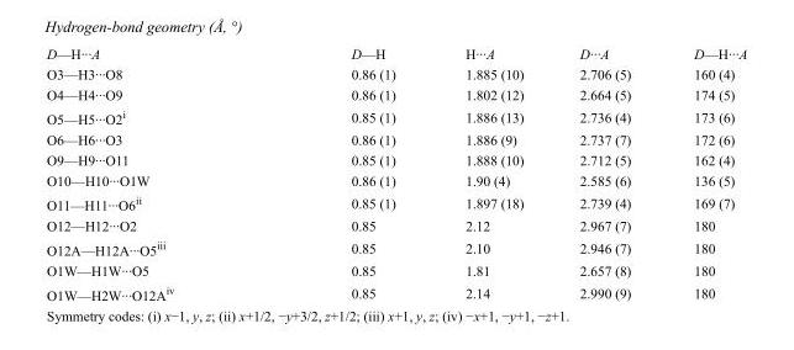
<table><tbody><tr><td>D—H···A</td><td>D—H</td><td>H···A</td><td>D···A</td><td>D—H···A</td></tr><tr><td>O3—H3···O8</td><td>0.86 (1)</td><td>1.885 (10)</td><td>2.706 (5)</td><td>160 (4)</td></tr><tr><td>O4—H4···O9</td><td>0.86 (1)</td><td>1.802 (12)</td><td>2.664 (5)</td><td>174 (5)</td></tr><tr><td>O5—H5···O2<sup>i</sup></td><td>0.85 (1)</td><td>1.886 (13)</td><td>2.736 (4)</td><td>173 (6)</td></tr><tr><td>O6—H6···O3</td><td>0.86 (1)</td><td>1.886 (9)</td><td>2.737 (7)</td><td>172 (6)</td></tr><tr><td>O9—H9···O11</td><td>0.85 (1)</td><td>1.888 (10)</td><td>2.712 (5)</td><td>162 (4)</td></tr><tr><td>O10—H10···O1W</td><td>0.86 (1)</td><td>1.90 (4)</td><td>2.585 (6)</td><td>136 (5)</td></tr><tr><td>O11—H11···O6<sup>ii</sup></td><td>0.85 (1)</td><td>1.897 (18)</td><td>2.739 (4)</td><td>169 (7)</td></tr><tr><td>O12—H12···O2</td><td>0.85</td><td>2.12</td><td>2.967 (7)</td><td>180</td></tr><tr><td>O12A—H12A···O5<sup>iii</sup></td><td>0.85</td><td>2.10</td><td>2.946 (7)</td><td>180</td></tr><tr><td>O1W—H1W···O5</td><td>0.85</td><td>1.81</td><td>2.657 (8)</td><td>180</td></tr><tr><td>O1W—H2W···O12A<sup>iv</sup></td><td>0.85</td><td>2.14</td><td>2.990 (9)</td><td>180</td></tr></tbody></table>